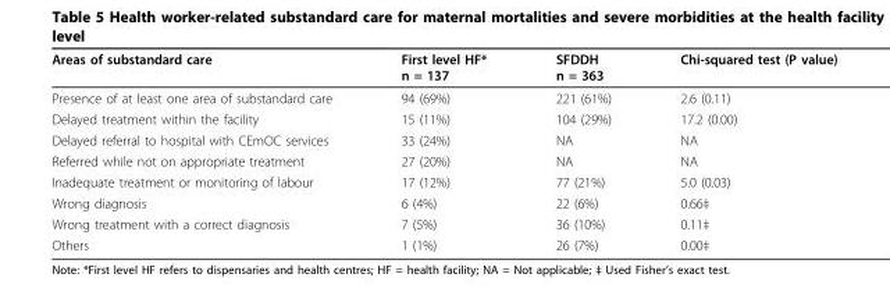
<table><thead><tr><td>Areas of substandard care</td><td>First level HF* n = 137</td><td>SFDDH n = 363</td><td>Chi-squared test (P value)</td></tr></thead><tbody><tr><td>Presence of at least one area of substandard care</td><td>94 (69%)</td><td>221 (61%)</td><td>2.6 (0.11)</td></tr><tr><td>Delayed treatment within the facility</td><td>15 (11%)</td><td>104 (29%)</td><td>17.2 (0.00)</td></tr><tr><td>Delayed referral to hospital with CEmOC services</td><td>33 (24%)</td><td>NA</td><td>NA</td></tr><tr><td>Referred while not on appropriate treatment</td><td>27 (20%)</td><td>NA</td><td>NA</td></tr><tr><td>Inadequate treatment or monitoring of labour</td><td>17 (12%)</td><td>77 (21%)</td><td>5.0 (0.03)</td></tr><tr><td>Wrong diagnosis</td><td>6 (4%)</td><td>22 (6%)</td><td>0.66‡</td></tr><tr><td>Wrong treatment with a correct diagnosis</td><td>7 (5%)</td><td>36 (10%)</td><td>0.11‡</td></tr><tr><td>Others</td><td>1 (1%)</td><td>26 (7%)</td><td>0.00‡</td></tr></tbody></table>